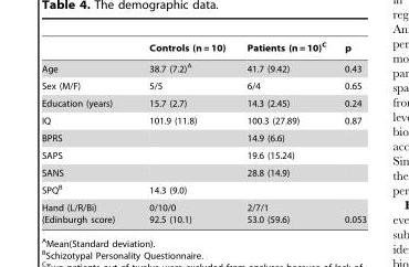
<table><thead><tr><td></td><td>Controls (n = 10)</td><td>Patients (n = 10)<sup>C</sup></td><td>p</td></tr></thead><tbody><tr><td>Age</td><td>38.7 (7.2)<sup>A</sup></td><td>41.7 (9.42)</td><td>0.43</td></tr><tr><td>Sex (M/F)</td><td>5/5</td><td>6/4</td><td>0.65</td></tr><tr><td>Education (years)</td><td>15.7 (2.7)</td><td>14.3 (2.45)</td><td>0.24</td></tr><tr><td>IQ</td><td>101.9 (11.8)</td><td>100.3 (27.89)</td><td>0.87</td></tr><tr><td>BPRS</td><td></td><td>14.9 (6.6)</td><td></td></tr><tr><td>SAPS</td><td></td><td>19.6 (15.24)</td><td></td></tr><tr><td>SANS</td><td></td><td>28.8 (14.9)</td><td></td></tr><tr><td>SPQ<sup>B</sup></td><td>14.3 (9.0)</td><td></td><td></td></tr><tr><td>Hand (L/R/Bi) (Edinburgh score)</td><td>0/10/0 92.5 (10.1)</td><td>2/7/1 53.0 (59.6)</td><td>0.053</td></tr></tbody></table>